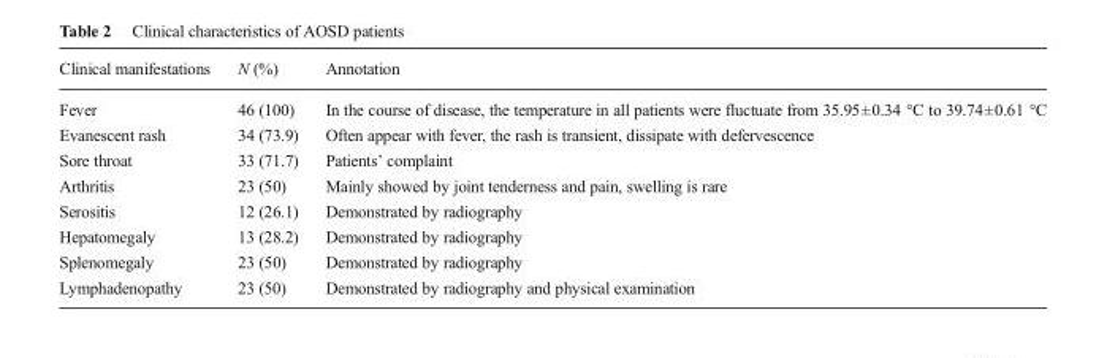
<table><thead><tr><td>Clinical manifestations</td><td>N (%)</td><td>Annotation</td></tr></thead><tbody><tr><td>Fever</td><td>46 (100)</td><td>In the course of disease, the temperature in all patients were fluctuate from 35.95±0.34 °C to 39.74±0.61 °C</td></tr><tr><td>Evanescent rash</td><td>34 (73.9)</td><td>Often appear with fever, the rash is transient, dissipate with defervescence</td></tr><tr><td>Sore throat</td><td>33 (71.7)</td><td>Patients’ complaint</td></tr><tr><td>Arthritis</td><td>23 (50)</td><td>Mainly showed by joint tenderness and pain, swelling is rare</td></tr><tr><td>Serositis</td><td>12 (26.1)</td><td>Demonstrated by radiography</td></tr><tr><td>Hepatomegaly</td><td>13 (28.2)</td><td>Demonstrated by radiography</td></tr><tr><td>Splenomegaly</td><td>23 (50)</td><td>Demonstrated by radiography</td></tr><tr><td>Lymphadenopathy</td><td>23 (50)</td><td>Demonstrated by radiography and physical examination</td></tr></tbody></table>